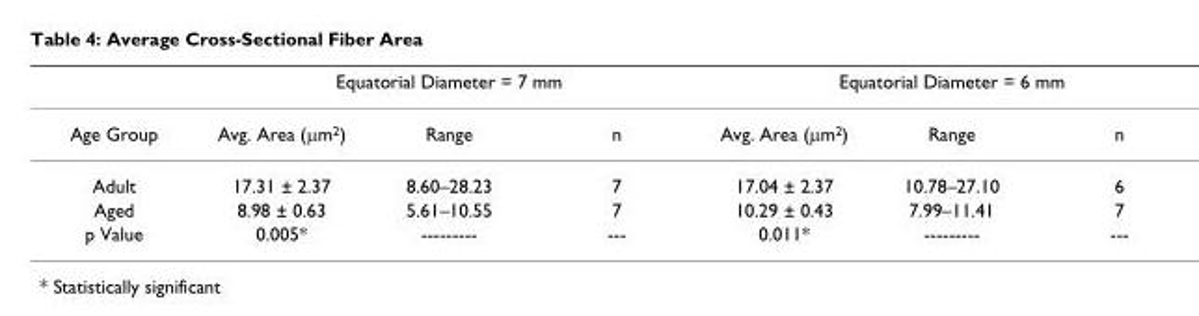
<table><thead><tr><td rowspan="2">Age Group</td><td colspan="3">Equatorial Diameter = 7 mm</td><td colspan="3">Equatorial Diameter = 6 mm</td></tr><tr><td>Avg. Area (µm<sup>2</sup>)</td><td>Range</td><td>n</td><td>Avg. Area (µm<sup>2</sup>)</td><td>Range</td><td>n</td></tr></thead><tbody><tr><td>Adult</td><td>17.31 ± 2.37</td><td>8.60–28.23</td><td>7</td><td>17.04 ± 2.37</td><td>10.78–27.10</td><td>6</td></tr><tr><td>Aged</td><td>8.98 ± 0.63</td><td>5.61–10.55</td><td>7</td><td>10.29 ± 0.43</td><td>7.99–11.41</td><td>7</td></tr><tr><td>p Value</td><td>0.005*</td><td>---------</td><td>---</td><td>0.011*</td><td>---------</td><td>---</td></tr></tbody></table>